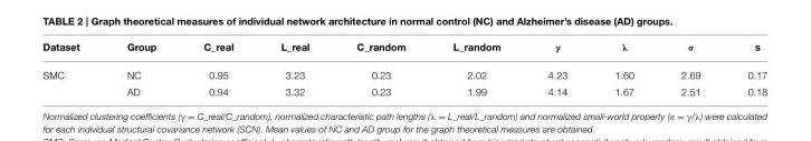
<table><thead><tr><td>Dataset</td><td>Group</td><td>C_real</td><td>L_real</td><td>C_random</td><td>L_random</td><td>γ</td><td>λ</td><td>σ</td><td>s</td></tr></thead><tbody><tr><td rowspan="2">SMC</td><td>NC</td><td>0.95</td><td>3.23</td><td>0.23</td><td>2.02</td><td>4.23</td><td>1.60</td><td>2.69</td><td>0.17</td></tr><tr><td>AD</td><td>0.94</td><td>3.32</td><td>0.23</td><td>1.99</td><td>4.14</td><td>1.67</td><td>2.51</td><td>0.18</td></tr></tbody></table>